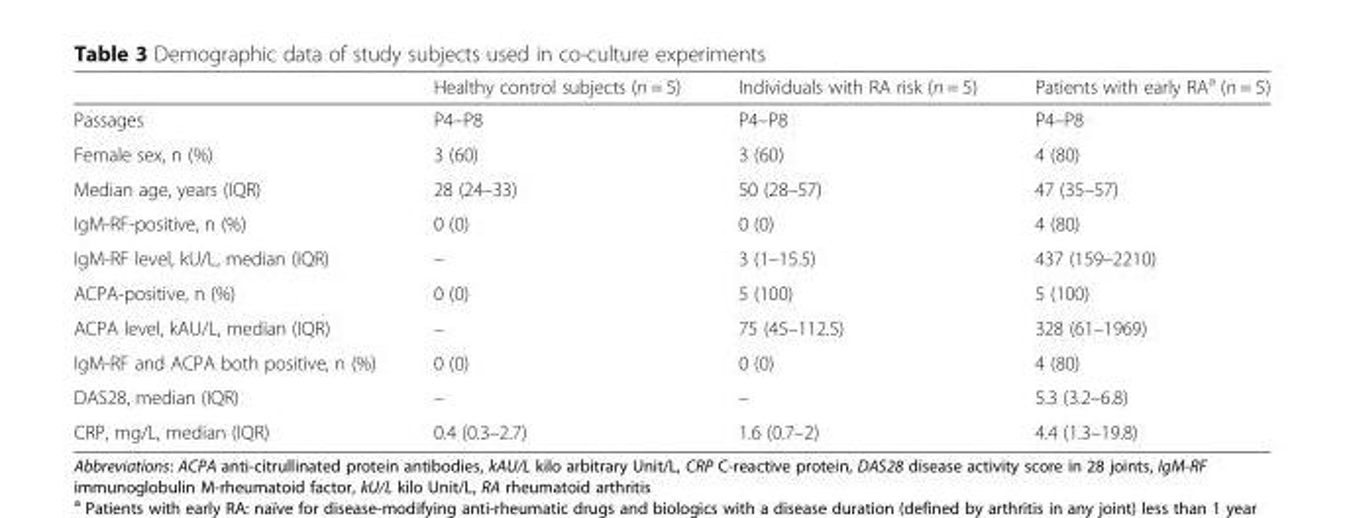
<table><thead><tr><td></td><td>Healthy control subjects (n = 5)</td><td>Individuals with RA risk (n = 5)</td><td>Patients with early RA<sup>a</sup> (n = 5)</td></tr></thead><tbody><tr><td>Passages</td><td>P4–P8</td><td>P4–P8</td><td>P4–P8</td></tr><tr><td>Female sex, n (%)</td><td>3 (60)</td><td>3 (60)</td><td>4 (80)</td></tr><tr><td>Median age, years (IQR)</td><td>28 (24–33)</td><td>50 (28–57)</td><td>47 (35–57)</td></tr><tr><td>IgM-RF-positive, n (%)</td><td>0 (0)</td><td>0 (0)</td><td>4 (80)</td></tr><tr><td>IgM-RF level, kU/L, median (IQR)</td><td>–</td><td>3 (1–15.5)</td><td>437 (159–2210)</td></tr><tr><td>ACPA-positive, n (%)</td><td>0 (0)</td><td>5 (100)</td><td>5 (100)</td></tr><tr><td>ACPA level, kAU/L, median (IQR)</td><td>–</td><td>75 (45–112.5)</td><td>328 (61–1969)</td></tr><tr><td>IgM-RF and ACPA both positive, n (%)</td><td>0 (0)</td><td>0 (0)</td><td>4 (80)</td></tr><tr><td>DAS28, median (IQR)</td><td>–</td><td>–</td><td>5.3 (3.2–6.8)</td></tr><tr><td>CRP, mg/L, median (IQR)</td><td>0.4 (0.3–2.7)</td><td>1.6 (0.7–2)</td><td>4.4 (1.3–19.8)</td></tr></tbody></table>